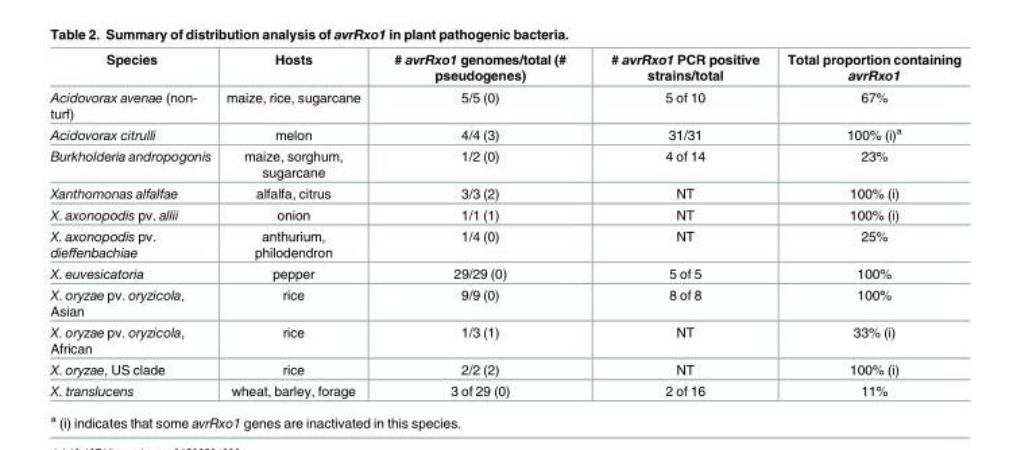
<table><thead><tr><td>Species</td><td>Hosts</td><td># avrRxo1 genomes/total (# pseudogenes)</td><td># avrRxo1 PCR positive strains/total</td><td>Total proportion containing avrRxo1</td></tr></thead><tbody><tr><td>Acidovorax avenae (non- turf)</td><td>maize, rice, sugarcane</td><td>5/5 (0)</td><td>5 of 10</td><td>67%</td></tr><tr><td>Acidovorax citrulli</td><td>melon</td><td>4/4 (3)</td><td>31/31</td><td>100% (i)<sup>a</sup></td></tr><tr><td>Burkholderia andropogonis</td><td>maize, sorghum, sugarcane</td><td>1/2 (0)</td><td>4 of 14</td><td>23%</td></tr><tr><td>Xanthomonas alfalfae</td><td>alfalfa, citrus</td><td>3/3 (2)</td><td>NT</td><td>100% (i)</td></tr><tr><td>X. axonopodis pv. allii</td><td>onion</td><td>1/1 (1)</td><td>NT</td><td>100% (i)</td></tr><tr><td>X. axonopodis pv. dieffenbachiae</td><td>anthurium, philodendron</td><td>1/4 (0)</td><td>NT</td><td>25%</td></tr><tr><td>X. euvesicatoria</td><td>pepper</td><td>29/29 (0)</td><td>5 of 5</td><td>100%</td></tr><tr><td>X. oryzae pv. oryzicola, Asian</td><td>rice</td><td>9/9 (0)</td><td>8 of 8</td><td>100%</td></tr><tr><td>X. oryzae pv. oryzicola, African</td><td>rice</td><td>1/3 (1)</td><td>NT</td><td>33% (i)</td></tr><tr><td>X. oryzae, US clade</td><td>rice</td><td>2/2 (2)</td><td>NT</td><td>100% (i)</td></tr><tr><td>X. translucens</td><td>wheat, barley, forage</td><td>3 of 29 (0)</td><td>2 of 16</td><td>11%</td></tr></tbody></table>